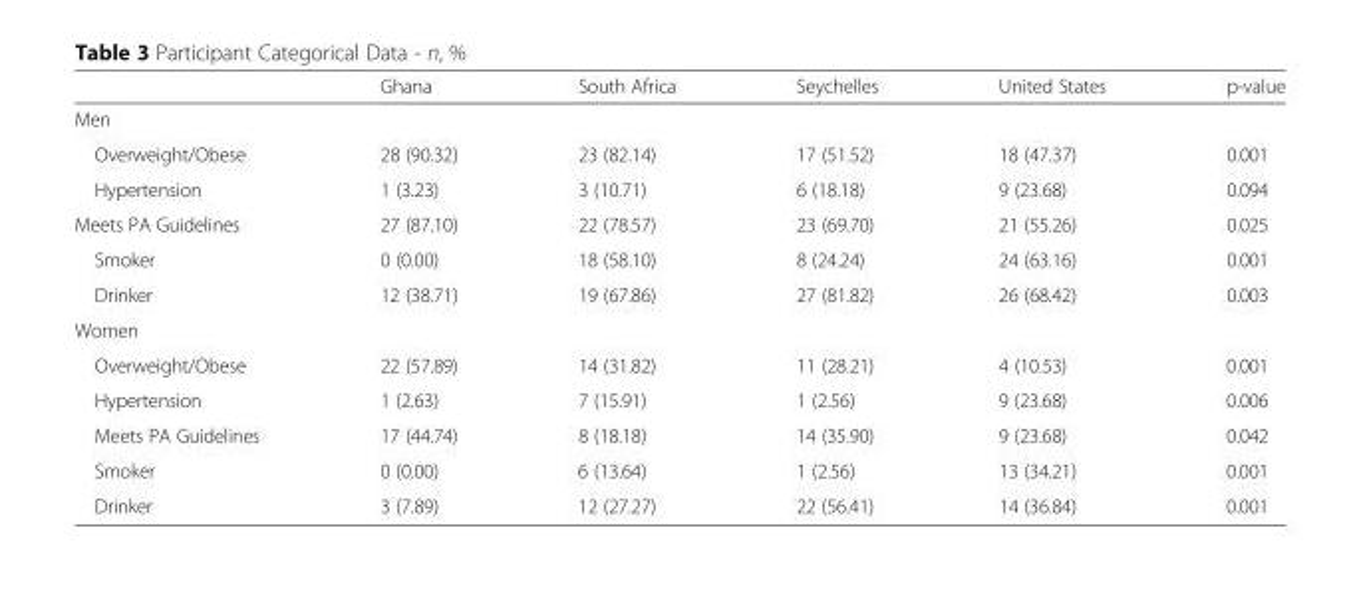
<table><thead><tr><td></td><td>Ghana</td><td>South Africa</td><td>Seychelles</td><td>United States</td><td>p-value</td></tr></thead><tbody><tr><td colspan="6">Men</td></tr><tr><td>Overweight/Obese</td><td>28 (90.32)</td><td>23 (82.14)</td><td>17 (51.52)</td><td>18 (47.37)</td><td>0.001</td></tr><tr><td>Hypertension</td><td>1 (3.23)</td><td>3 (10.71)</td><td>6 (18.18)</td><td>9 (23.68)</td><td>0.094</td></tr><tr><td>Meets PA Guidelines</td><td>27 (87.10)</td><td>22 (78.57)</td><td>23 (69.70)</td><td>21 (55.26)</td><td>0.025</td></tr><tr><td>Smoker</td><td>0 (0.00)</td><td>18 (58.10)</td><td>8 (24.24)</td><td>24 (63.16)</td><td>0.001</td></tr><tr><td>Drinker</td><td>12 (38.71)</td><td>19 (67.86)</td><td>27 (81.82)</td><td>26 (68.42)</td><td>0.003</td></tr><tr><td colspan="6">Women</td></tr><tr><td>Overweight/Obese</td><td>22 (57.89)</td><td>14 (31.82)</td><td>11 (28.21)</td><td>4 (10.53)</td><td>0.001</td></tr><tr><td>Hypertension</td><td>1 (2.63)</td><td>7 (15.91)</td><td>1 (2.56)</td><td>9 (23.68)</td><td>0.006</td></tr><tr><td>Meets PA Guidelines</td><td>17 (44.74)</td><td>8 (18.18)</td><td>14 (35.90)</td><td>9 (23.68)</td><td>0.042</td></tr><tr><td>Smoker</td><td>0 (0.00)</td><td>6 (13.64)</td><td>1 (2.56)</td><td>13 (34.21)</td><td>0.001</td></tr><tr><td>Drinker</td><td>3 (7.89)</td><td>12 (27.27)</td><td>22 (56.41)</td><td>14 (36.84)</td><td>0.001</td></tr></tbody></table>